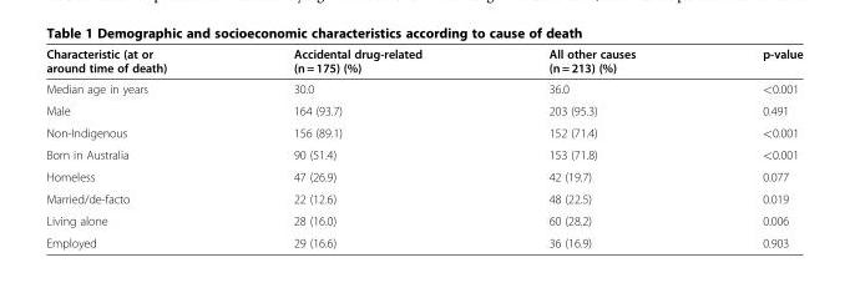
<table><thead><tr><td>Characteristic (at or around time of death)</td><td>Accidental drug-related (n = 175) (%)</td><td>All other causes (n = 213) (%)</td><td>p-value</td></tr></thead><tbody><tr><td>Median age in years</td><td>30.0</td><td>36.0</td><td>&lt;0.001</td></tr><tr><td>Male</td><td>164 (93.7)</td><td>203 (95.3)</td><td>0.491</td></tr><tr><td>Non-Indigenous</td><td>156 (89.1)</td><td>152 (71.4)</td><td>&lt;0.001</td></tr><tr><td>Born in Australia</td><td>90 (51.4)</td><td>153 (71.8)</td><td>&lt;0.001</td></tr><tr><td>Homeless</td><td>47 (26.9)</td><td>42 (19.7)</td><td>0.077</td></tr><tr><td>Married/de-facto</td><td>22 (12.6)</td><td>48 (22.5)</td><td>0.019</td></tr><tr><td>Living alone</td><td>28 (16.0)</td><td>60 (28.2)</td><td>0.006</td></tr><tr><td>Employed</td><td>29 (16.6)</td><td>36 (16.9)</td><td>0.903</td></tr></tbody></table>